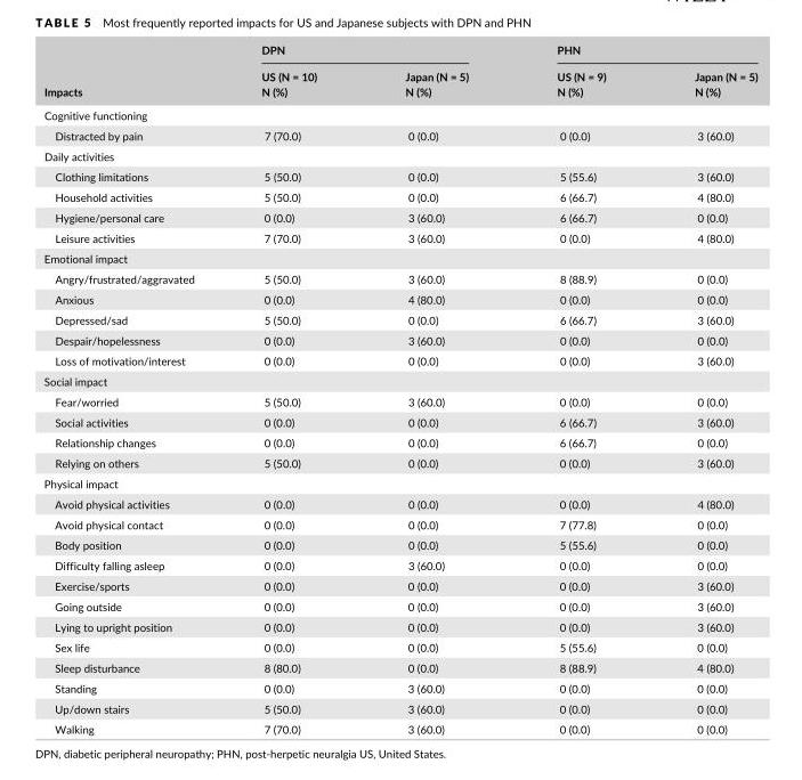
<table><thead><tr><td rowspan="2">Impacts</td><td colspan="2">DPN</td><td colspan="2">PHN</td></tr><tr><td>US (N = 10) N (%)</td><td>Japan (N = 5) N (%)</td><td>US (N = 9) N (%)</td><td>Japan (N = 5) N (%)</td></tr></thead><tbody><tr><td colspan="5">Cognitive functioning</td></tr><tr><td>Distracted by pain</td><td>7 (70.0)</td><td>0 (0.0)</td><td>0 (0.0)</td><td>3 (60.0)</td></tr><tr><td colspan="5">Daily activities</td></tr><tr><td>Clothing limitations</td><td>5 (50.0)</td><td>0 (0.0)</td><td>5 (55.6)</td><td>3 (60.0)</td></tr><tr><td>Household activities</td><td>5 (50.0)</td><td>0 (0.0)</td><td>6 (66.7)</td><td>4 (80.0)</td></tr><tr><td>Hygiene/personal care</td><td>0 (0.0)</td><td>3 (60.0)</td><td>6 (66.7)</td><td>0 (0.0)</td></tr><tr><td>Leisure activities</td><td>7 (70.0)</td><td>3 (60.0)</td><td>0 (0.0)</td><td>4 (80.0)</td></tr><tr><td colspan="5">Emotional impact</td></tr><tr><td>Angry/frustrated/aggravated</td><td>5 (50.0)</td><td>3 (60.0)</td><td>8 (88.9)</td><td>0 (0.0)</td></tr><tr><td>Anxious</td><td>0 (0.0)</td><td>4 (80.0)</td><td>0 (0.0)</td><td>0 (0.0)</td></tr><tr><td>Depressed/sad</td><td>5 (50.0)</td><td>0 (0.0)</td><td>6 (66.7)</td><td>3 (60.0)</td></tr><tr><td>Despair/hopelessness</td><td>0 (0.0)</td><td>3 (60.0)</td><td>0 (0.0)</td><td>0 (0.0)</td></tr><tr><td>Loss of motivation/interest</td><td>0 (0.0)</td><td>0 (0.0)</td><td>0 (0.0)</td><td>3 (60.0)</td></tr><tr><td colspan="5">Social impact</td></tr><tr><td>Fear/worried</td><td>5 (50.0)</td><td>3 (60.0)</td><td>0 (0.0)</td><td>0 (0.0)</td></tr><tr><td>Social activities</td><td>0 (0.0)</td><td>0 (0.0)</td><td>6 (66.7)</td><td>3 (60.0)</td></tr><tr><td>Relationship changes</td><td>0 (0.0)</td><td>0 (0.0)</td><td>6 (66.7)</td><td>0 (0.0)</td></tr><tr><td>Relying on others</td><td>5 (50.0)</td><td>0 (0.0)</td><td>0 (0.0)</td><td>3 (60.0)</td></tr><tr><td colspan="5">Physical impact</td></tr><tr><td>Avoid physical activities</td><td>0 (0.0)</td><td>0 (0.0)</td><td>0 (0.0)</td><td>4 (80.0)</td></tr><tr><td>Avoid physical contact</td><td>0 (0.0)</td><td>0 (0.0)</td><td>7 (77.8)</td><td>0 (0.0)</td></tr><tr><td>Body position</td><td>0 (0.0)</td><td>0 (0.0)</td><td>5 (55.6)</td><td>0 (0.0)</td></tr><tr><td>Difficulty falling asleep</td><td>0 (0.0)</td><td>3 (60.0)</td><td>0 (0.0)</td><td>0 (0.0)</td></tr><tr><td>Exercise/sports</td><td>0 (0.0)</td><td>0 (0.0)</td><td>0 (0.0)</td><td>3 (60.0)</td></tr><tr><td>Going outside</td><td>0 (0.0)</td><td>0 (0.0)</td><td>0 (0.0)</td><td>3 (60.0)</td></tr><tr><td>Lying to upright position</td><td>0 (0.0)</td><td>0 (0.0)</td><td>0 (0.0)</td><td>3 (60.0)</td></tr><tr><td>Sex life</td><td>0 (0.0)</td><td>0 (0.0)</td><td>5 (55.6)</td><td>0 (0.0)</td></tr><tr><td>Sleep disturbance</td><td>8 (80.0)</td><td>0 (0.0)</td><td>8 (88.9)</td><td>4 (80.0)</td></tr><tr><td>Standing</td><td>0 (0.0)</td><td>3 (60.0)</td><td>0 (0.0)</td><td>0 (0.0)</td></tr><tr><td>Up/down stairs</td><td>5 (50.0)</td><td>3 (60.0)</td><td>0 (0.0)</td><td>0 (0.0)</td></tr><tr><td>Walking</td><td>7 (70.0)</td><td>3 (60.0)</td><td>0 (0.0)</td><td>0 (0.0)</td></tr></tbody></table>